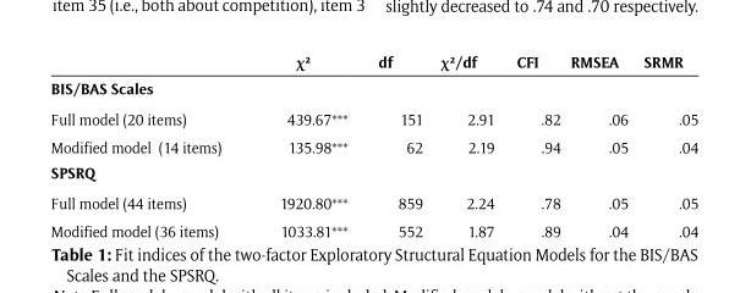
<table><thead><tr><td></td><td>χ²</td><td>df</td><td>χ²/df</td><td>CFI</td><td>RMSEA</td><td>SRMR</td></tr></thead><tbody><tr><td colspan="7">BIS/BAS Scales</td></tr><tr><td>Full model (20 items)</td><td>439.67***</td><td>151</td><td>2.91</td><td>.82</td><td>.06</td><td>.05</td></tr><tr><td>Modified model (14 items)</td><td>135.98***</td><td>62</td><td>2.19</td><td>.94</td><td>.05</td><td>.04</td></tr><tr><td colspan="7">SPSRQ</td></tr><tr><td>Full model (44 items)</td><td>1920.80***</td><td>859</td><td>2.24</td><td>.78</td><td>.05</td><td>.05</td></tr><tr><td>Modified model (36 items)</td><td>1033.81***</td><td>552</td><td>1.87</td><td>.89</td><td>.04</td><td>.04</td></tr></tbody></table>